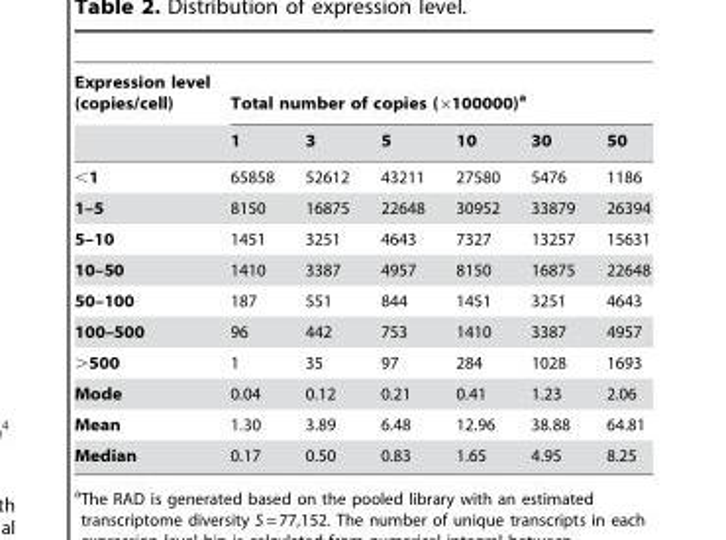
<table><thead><tr><td rowspan="2">Expression level (copies/cell)</td><td colspan="6">Total number of copies (×100000)<sup>a</sup></td></tr><tr><td>1</td><td>3</td><td>5</td><td>10</td><td>30</td><td>50</td></tr></thead><tbody><tr><td>&lt;1</td><td>65858</td><td>52612</td><td>43211</td><td>27580</td><td>5476</td><td>1186</td></tr><tr><td>1–5</td><td>8150</td><td>16875</td><td>22648</td><td>30952</td><td>33879</td><td>26394</td></tr><tr><td>5–10</td><td>1451</td><td>3251</td><td>4643</td><td>7327</td><td>13257</td><td>15631</td></tr><tr><td>10–50</td><td>1410</td><td>3387</td><td>4957</td><td>8150</td><td>16875</td><td>22648</td></tr><tr><td>50–100</td><td>187</td><td>551</td><td>844</td><td>1451</td><td>3251</td><td>4643</td></tr><tr><td>100–500</td><td>96</td><td>442</td><td>753</td><td>1410</td><td>3387</td><td>4957</td></tr><tr><td>&gt;500</td><td>1</td><td>35</td><td>97</td><td>284</td><td>1028</td><td>1693</td></tr><tr><td>Mode</td><td>0.04</td><td>0.12</td><td>0.21</td><td>0.41</td><td>1.23</td><td>2.06</td></tr><tr><td>Mean</td><td>1.30</td><td>3.89</td><td>6.48</td><td>12.96</td><td>38.88</td><td>64.81</td></tr><tr><td>Median</td><td>0.17</td><td>0.50</td><td>0.83</td><td>1.65</td><td>4.95</td><td>8.25</td></tr></tbody></table>